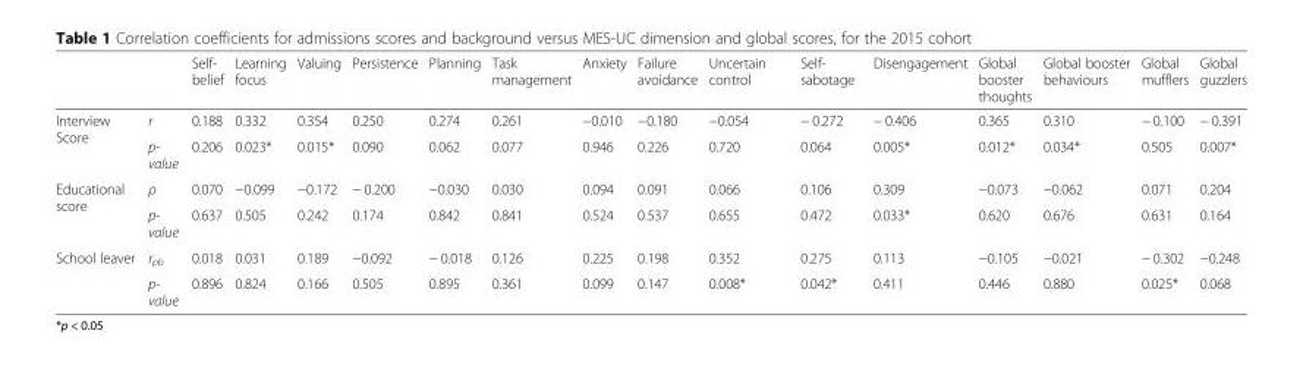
<table><thead><tr><td></td><td></td><td>Self- belief</td><td>Learning focus</td><td>Valuing</td><td>Persistence</td><td>Planning</td><td>Task management</td><td>Anxiety</td><td>Failure avoidance</td><td>Uncertain control</td><td>Self- sabotage</td><td>Disengagement</td><td>Global booster thoughts</td><td>Global booster behaviours</td><td>Global mufflers</td><td>Global guzzlers</td></tr></thead><tbody><tr><td rowspan="2">Interview Score</td><td>r</td><td>0.188</td><td>0.332</td><td>0.354</td><td>0.250</td><td>0.274</td><td>0.261</td><td>−0.010</td><td>−0.180</td><td>−0.054</td><td>− 0.272</td><td>− 0.406</td><td>0.365</td><td>0.310</td><td>− 0.100</td><td>− 0.391</td></tr><tr><td>p- value</td><td>0.206</td><td>0.023*</td><td>0.015*</td><td>0.090</td><td>0.062</td><td>0.077</td><td>0.946</td><td>0.226</td><td>0.720</td><td>0.064</td><td>0.005*</td><td>0.012*</td><td>0.034*</td><td>0.505</td><td>0.007*</td></tr><tr><td rowspan="2">Educational score</td><td>ρ</td><td>0.070</td><td>−0.099</td><td>−0.172</td><td>− 0.200</td><td>−0.030</td><td>0.030</td><td>0.094</td><td>0.091</td><td>0.066</td><td>0.106</td><td>0.309</td><td>−0.073</td><td>−0.062</td><td>0.071</td><td>0.204</td></tr><tr><td>p- value</td><td>0.637</td><td>0.505</td><td>0.242</td><td>0.174</td><td>0.842</td><td>0.841</td><td>0.524</td><td>0.537</td><td>0.655</td><td>0.472</td><td>0.033*</td><td>0.620</td><td>0.676</td><td>0.631</td><td>0.164</td></tr><tr><td rowspan="2">School leaver</td><td>r<sub>pb</sub></td><td>0.018</td><td>0.031</td><td>0.189</td><td>−0.092</td><td>− 0.018</td><td>0.126</td><td>0.225</td><td>0.198</td><td>0.352</td><td>0.275</td><td>0.113</td><td>−0.105</td><td>−0.021</td><td>− 0.302</td><td>−0.248</td></tr><tr><td>p- value</td><td>0.896</td><td>0.824</td><td>0.166</td><td>0.505</td><td>0.895</td><td>0.361</td><td>0.099</td><td>0.147</td><td>0.008*</td><td>0.042*</td><td>0.411</td><td>0.446</td><td>0.880</td><td>0.025*</td><td>0.068</td></tr></tbody></table>